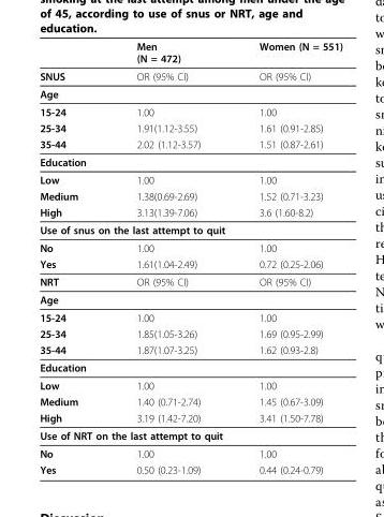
<table><thead><tr><td></td><td>Men (N = 472)</td><td>Women (N = 551)</td></tr></thead><tbody><tr><td>SNUS</td><td>OR (95% CI)</td><td>OR (95% CI)</td></tr><tr><td colspan="3">Age</td></tr><tr><td>15-24</td><td>1.00</td><td>1.00</td></tr><tr><td>25-34</td><td>1.91(1.12-3.55)</td><td>1.61 (0.91-2.85)</td></tr><tr><td>35-44</td><td>2.02 (1.12-3.57)</td><td>1.51 (0.87-2.61)</td></tr><tr><td colspan="3">Education</td></tr><tr><td>Low</td><td>1.00</td><td>1.00</td></tr><tr><td>Medium</td><td>1.38(0.69-2.69)</td><td>1.52 (0.71-3.23)</td></tr><tr><td>High</td><td>3.13(1.39-7.06)</td><td>3.6 (1.60-8.2)</td></tr><tr><td colspan="3">Use of snus on the last attempt to quit</td></tr><tr><td>No</td><td>1.00</td><td>1.00</td></tr><tr><td>Yes</td><td>1.61(1.04-2.49)</td><td>0.72 (0.25-2.06)</td></tr><tr><td>NRT</td><td>OR (95% CI)</td><td>OR (95% CI)</td></tr><tr><td colspan="3">Age</td></tr><tr><td>15-24</td><td>1.00</td><td>1.00</td></tr><tr><td>25-34</td><td>1.85(1.05-3.26)</td><td>1.69 (0.95-2.99)</td></tr><tr><td>35-44</td><td>1.87(1.07-3.25)</td><td>1.62 (0.93-2.8)</td></tr><tr><td colspan="3">Education</td></tr><tr><td>Low</td><td>1.00</td><td>1.00</td></tr><tr><td>Medium</td><td>1.40 (0.71-2.74)</td><td>1.45 (0.67-3.09)</td></tr><tr><td>High</td><td>3.19 (1.42-7.20)</td><td>3.41 (1.50-7.78)</td></tr><tr><td colspan="3">Use of NRT on the last attempt to quit</td></tr><tr><td>No</td><td>1.00</td><td>1.00</td></tr><tr><td>Yes</td><td>0.50 (0.23-1.09)</td><td>0.44 (0.24-0.79)</td></tr></tbody></table>